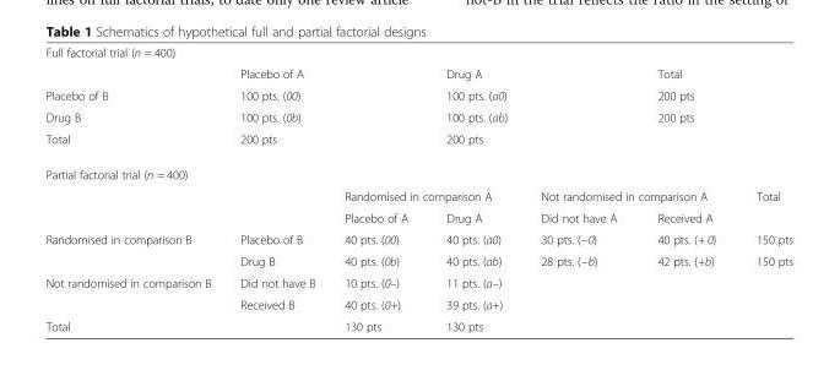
<table><tbody><tr><td colspan="7">Full factorial trial (n = 400)</td></tr><tr><td></td><td colspan="2">Placebo of A</td><td colspan="2">Drug A</td><td colspan="2">Total</td></tr><tr><td>Placebo of B</td><td colspan="2">100 pts. (00)</td><td colspan="2">100 pts. (a0)</td><td colspan="2">200 pts</td></tr><tr><td>Drug B</td><td colspan="2">100 pts. (0b)</td><td colspan="2">100 pts. (ab)</td><td colspan="2">200 pts</td></tr><tr><td>Total</td><td colspan="2">200 pts</td><td colspan="2">200 pts</td><td colspan="2"></td></tr><tr><td colspan="7">Partial factorial trial (n = 400)</td></tr><tr><td rowspan="2" colspan="2"></td><td colspan="2">Randomised in comparison A</td><td colspan="2">Not randomised in comparison A</td><td rowspan="2">Total</td></tr><tr><td>Placebo of A</td><td>Drug A</td><td>Did not have A</td><td>Received A</td></tr><tr><td rowspan="2">Randomised in comparison B</td><td>Placebo of B</td><td>40 pts. (00)</td><td>40 pts. (a0)</td><td>30 pts. (−0)</td><td>40 pts. (+ 0)</td><td>150 pts</td></tr><tr><td>Drug B</td><td>40 pts. (0b)</td><td>40 pts. (ab)</td><td>28 pts. (−b)</td><td>42 pts. (+b)</td><td>150 pts</td></tr><tr><td rowspan="2">Not randomised in comparison B</td><td>Did not have B</td><td>10 pts. (0–)</td><td>11 pts. (a–)</td><td rowspan="3" colspan="3"></td></tr><tr><td>Received B</td><td>40 pts. (0+)</td><td>39 pts. (a+)</td></tr><tr><td colspan="2">Total</td><td>130 pts</td><td>130 pts</td></tr></tbody></table>